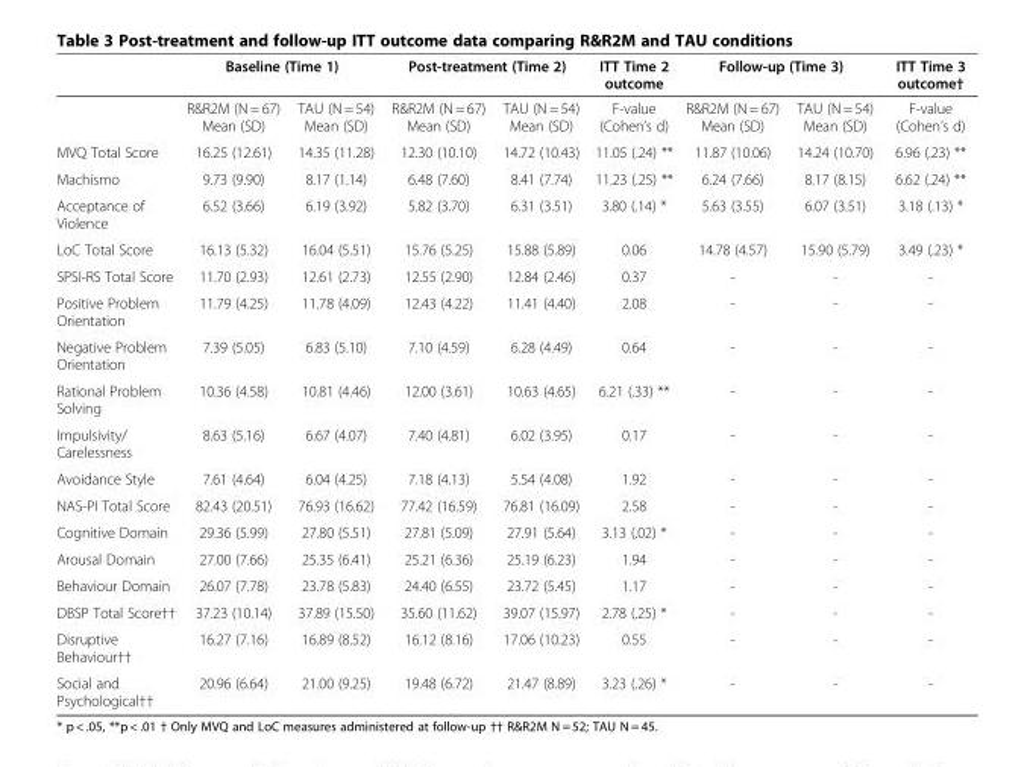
<table><thead><tr><td rowspan="2"></td><td colspan="2">Baseline (Time 1)</td><td colspan="2">Post-treatment (Time 2)</td><td rowspan="2">ITT Time 2 outcome F-value (Cohen’s d)</td><td colspan="2">Follow-up (Time 3)</td><td rowspan="2">ITT Time 3 outcome† F-value (Cohen’s d)</td></tr><tr><td>R&amp;R2M (N = 67) Mean (SD)</td><td>TAU (N = 54) Mean (SD)</td><td>R&amp;R2M (N = 67) Mean (SD)</td><td>TAU (N = 54) Mean (SD)</td><td>R&amp;R2M (N = 67) Mean (SD)</td><td>TAU (N = 54) Mean (SD)</td></tr></thead><tbody><tr><td>MVQ Total Score</td><td>16.25 (12.61)</td><td>14.35 (11.28)</td><td>12.30 (10.10)</td><td>14.72 (10.43)</td><td>11.05 (.24) **</td><td>11.87 (10.06)</td><td>14.24 (10.70)</td><td>6.96 (.23) **</td></tr><tr><td>Machismo</td><td>9.73 (9.90)</td><td>8.17 (1.14)</td><td>6.48 (7.60)</td><td>8.41 (7.74)</td><td>11.23 (.25) **</td><td>6.24 (7.66)</td><td>8.17 (8.15)</td><td>6.62 (.24) **</td></tr><tr><td>Acceptance of Violence</td><td>6.52 (3.66)</td><td>6.19 (3.92)</td><td>5.82 (3.70)</td><td>6.31 (3.51)</td><td>3.80 (.14) *</td><td>5.63 (3.55)</td><td>6.07 (3.51)</td><td>3.18 (.13) *</td></tr><tr><td>LoC Total Score</td><td>16.13 (5.32)</td><td>16.04 (5.51)</td><td>15.76 (5.25)</td><td>15.88 (5.89)</td><td>0.06</td><td>14.78 (4.57)</td><td>15.90 (5.79)</td><td>3.49 (.23) *</td></tr><tr><td>SPSI-RS Total Score</td><td>11.70 (2.93)</td><td>12.61 (2.73)</td><td>12.55 (2.90)</td><td>12.84 (2.46)</td><td>0.37</td><td>-</td><td>-</td><td>-</td></tr><tr><td>Positive Problem Orientation</td><td>11.79 (4.25)</td><td>11.78 (4.09)</td><td>12.43 (4.22)</td><td>11.41 (4.40)</td><td>2.08</td><td>-</td><td>-</td><td>-</td></tr><tr><td>Negative Problem Orientation</td><td>7.39 (5.05)</td><td>6.83 (5.10)</td><td>7.10 (4.59)</td><td>6.28 (4.49)</td><td>0.64</td><td>-</td><td>-</td><td>-</td></tr><tr><td>Rational Problem Solving</td><td>10.36 (4.58)</td><td>10.81 (4.46)</td><td>12.00 (3.61)</td><td>10.63 (4.65)</td><td>6.21 (.33) **</td><td>-</td><td>-</td><td>-</td></tr><tr><td>Impulsivity/ Carelessness</td><td>8.63 (5.16)</td><td>6.67 (4.07)</td><td>7.40 (4.81)</td><td>6.02 (3.95)</td><td>0.17</td><td>-</td><td>-</td><td>-</td></tr><tr><td>Avoidance Style</td><td>7.61 (4.64)</td><td>6.04 (4.25)</td><td>7.18 (4.13)</td><td>5.54 (4.08)</td><td>1.92</td><td>-</td><td>-</td><td>-</td></tr><tr><td>NAS-PI Total Score</td><td>82.43 (20.51)</td><td>76.93 (16.62)</td><td>77.42 (16.59)</td><td>76.81 (16.09)</td><td>2.58</td><td>-</td><td>-</td><td>-</td></tr><tr><td>Cognitive Domain</td><td>29.36 (5.99)</td><td>27.80 (5.51)</td><td>27.81 (5.09)</td><td>27.91 (5.64)</td><td>3.13 (.02) *</td><td>-</td><td>-</td><td>-</td></tr><tr><td>Arousal Domain</td><td>27.00 (7.66)</td><td>25.35 (6.41)</td><td>25.21 (6.36)</td><td>25.19 (6.23)</td><td>1.94</td><td>-</td><td>-</td><td>-</td></tr><tr><td>Behaviour Domain</td><td>26.07 (7.78)</td><td>23.78 (5.83)</td><td>24.40 (6.55)</td><td>23.72 (5.45)</td><td>1.17</td><td>-</td><td>-</td><td>-</td></tr><tr><td>DBSP Total Score††</td><td>37.23 (10.14)</td><td>37.89 (15.50)</td><td>35.60 (11.62)</td><td>39.07 (15.97)</td><td>2.78 (.25) *</td><td>-</td><td>-</td><td>-</td></tr><tr><td>Disruptive Behaviour††</td><td>16.27 (7.16)</td><td>16.89 (8.52)</td><td>16.12 (8.16)</td><td>17.06 (10.23)</td><td>0.55</td><td>-</td><td>-</td><td>-</td></tr><tr><td>Social and Psychological††</td><td>20.96 (6.64)</td><td>21.00 (9.25)</td><td>19.48 (6.72)</td><td>21.47 (8.89)</td><td>3.23 (.26) *</td><td>-</td><td>-</td><td>-</td></tr></tbody></table>